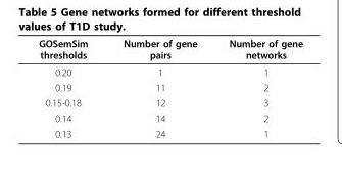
<table><thead><tr><td>GOSemSim thresholds</td><td>Number of gene pairs</td><td>Number of gene networks</td></tr></thead><tbody><tr><td>0.20</td><td>1</td><td>1</td></tr><tr><td>0.19</td><td>11</td><td>2</td></tr><tr><td>0.15-0.18</td><td>12</td><td>3</td></tr><tr><td>0.14</td><td>14</td><td>2</td></tr><tr><td>0.13</td><td>24</td><td>1</td></tr></tbody></table>